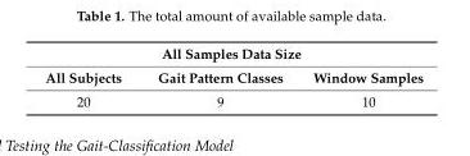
<table><thead><tr><td colspan="3">All Samples Data Size</td></tr><tr><td>All Subjects</td><td>Gait Pattern Classes</td><td>Window Samples</td></tr></thead><tbody><tr><td>20</td><td>9</td><td>10</td></tr></tbody></table>